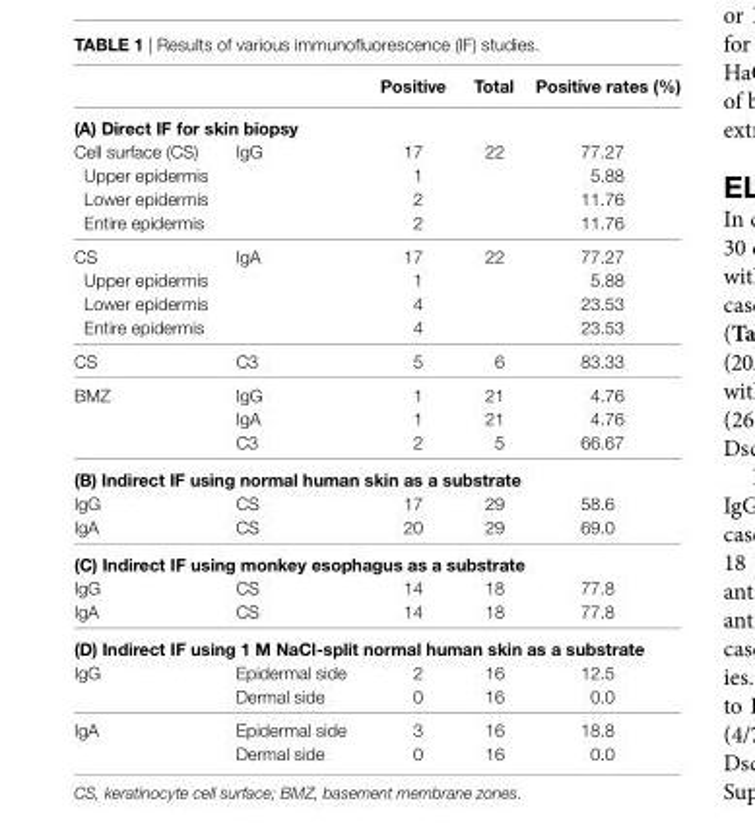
<table><thead><tr><td></td><td></td><td>positive</td><td>total</td><td>positive rates (%)</td></tr></thead><tbody><tr><td colspan="5">(a) Direct IF for skin biopsy</td></tr><tr><td>Cell surface (CS)</td><td>IgG</td><td>17</td><td>22</td><td>77.27</td></tr><tr><td>Upper epidermis</td><td></td><td>1</td><td></td><td>5.88</td></tr><tr><td>Lower epidermis</td><td></td><td>2</td><td></td><td>11.76</td></tr><tr><td>Entire epidermis</td><td></td><td>2</td><td></td><td>11.76</td></tr><tr><td>CS</td><td>IgA</td><td>17</td><td>22</td><td>77.27</td></tr><tr><td>Upper epidermis</td><td></td><td>1</td><td></td><td>5.88</td></tr><tr><td>Lower epidermis</td><td></td><td>4</td><td></td><td>23.53</td></tr><tr><td>Entire epidermis</td><td></td><td>4</td><td></td><td>23.53</td></tr><tr><td>CS</td><td>C3</td><td>5</td><td>6</td><td>83.33</td></tr><tr><td rowspan="3">BMZ</td><td>IgG</td><td>1</td><td>21</td><td>4.76</td></tr><tr><td>IgA</td><td>1</td><td>21</td><td>4.76</td></tr><tr><td>C3</td><td>2</td><td>5</td><td>66.67</td></tr><tr><td colspan="5">(B) Indirect IF using normal human skin as a substrate</td></tr><tr><td>IgG</td><td>CS</td><td>17</td><td>29</td><td>58.6</td></tr><tr><td>IgA</td><td>CS</td><td>20</td><td>29</td><td>69.0</td></tr><tr><td colspan="5">(C) Indirect IF using monkey esophagus as a substrate</td></tr><tr><td>IgG</td><td>CS</td><td>14</td><td>18</td><td>77.8</td></tr><tr><td>IgA</td><td>CS</td><td>14</td><td>18</td><td>77.8</td></tr><tr><td colspan="5">(D) Indirect IF using 1 M NaCl-split normal human skin as a substrate</td></tr><tr><td rowspan="2">IgG</td><td>Epidermal side</td><td>2</td><td>16</td><td>12.5</td></tr><tr><td>Dermal side</td><td>0</td><td>16</td><td>0.0</td></tr><tr><td rowspan="2">IgA</td><td>Epidermal side</td><td>3</td><td>16</td><td>18.8</td></tr><tr><td>Dermal side</td><td>0</td><td>16</td><td>0.0</td></tr></tbody></table>